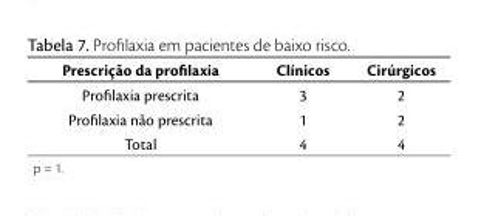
<table><thead><tr><td>Prescrição da profilaxia</td><td>Clínicos</td><td>Cirúrgicos</td></tr></thead><tbody><tr><td>Profilaxia prescrita</td><td>3</td><td>2</td></tr><tr><td>Profilaxia não prescrita</td><td>1</td><td>2</td></tr><tr><td>Total</td><td>4</td><td>4</td></tr></tbody></table>